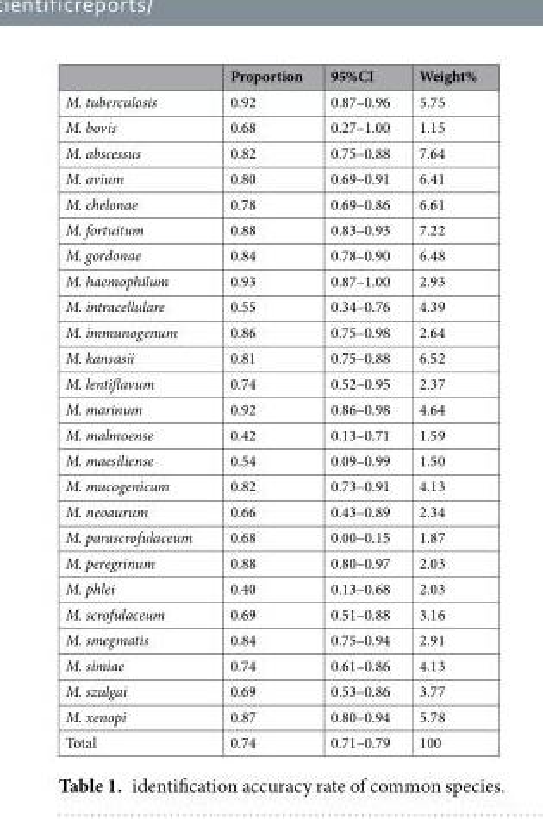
<table><thead><tr><td></td><td>Proportion</td><td>95%CI</td><td>Weight%</td></tr></thead><tbody><tr><td>M. tuberculosis</td><td>0.92</td><td>0.87–0.96</td><td>5.75</td></tr><tr><td>M. bovis</td><td>0.68</td><td>0.27–1.00</td><td>1.15</td></tr><tr><td>M. abscessus</td><td>0.82</td><td>0.75–0.88</td><td>7.64</td></tr><tr><td>M. avium</td><td>0.80</td><td>0.69–0.91</td><td>6.41</td></tr><tr><td>M. chelonae</td><td>0.78</td><td>0.69–0.86</td><td>6.61</td></tr><tr><td>M. fortuitum</td><td>0.88</td><td>0.83–0.93</td><td>7.22</td></tr><tr><td>M. gordonae</td><td>0.84</td><td>0.78–0.90</td><td>6.48</td></tr><tr><td>M. haemophilum</td><td>0.93</td><td>0.87–1.00</td><td>2.93</td></tr><tr><td>M. intracellulare</td><td>0.55</td><td>0.34–0.76</td><td>4.39</td></tr><tr><td>M. immunogenum</td><td>0.86</td><td>0.75–0.98</td><td>2.64</td></tr><tr><td>M. kansasii</td><td>0.81</td><td>0.75–0.88</td><td>6.52</td></tr><tr><td>M. lentiflavum</td><td>0.74</td><td>0.52–0.95</td><td>2.37</td></tr><tr><td>M. marinum</td><td>0.92</td><td>0.86–0.98</td><td>4.64</td></tr><tr><td>M. malmoense</td><td>0.42</td><td>0.13–0.71</td><td>1.59</td></tr><tr><td>M. maesiliense</td><td>0.54</td><td>0.09–0.99</td><td>1.50</td></tr><tr><td>M. mucogenicum</td><td>0.82</td><td>0.73–0.91</td><td>4.13</td></tr><tr><td>M. neoaurum</td><td>0.66</td><td>0.43–0.89</td><td>2.34</td></tr><tr><td>M. parascrofulaceum</td><td>0.68</td><td>0.00–0.15</td><td>1.87</td></tr><tr><td>M. peregrinum</td><td>0.88</td><td>0.80–0.97</td><td>2.03</td></tr><tr><td>M. phlei</td><td>0.40</td><td>0.13–0.68</td><td>2.03</td></tr><tr><td>M. scrofulaceum</td><td>0.69</td><td>0.51–0.88</td><td>3.16</td></tr><tr><td>M. smegmatis</td><td>0.84</td><td>0.75–0.94</td><td>2.91</td></tr><tr><td>M. simiae</td><td>0.74</td><td>0.61–0.86</td><td>4.13</td></tr><tr><td>M. szulgai</td><td>0.69</td><td>0.53–0.86</td><td>3.77</td></tr><tr><td>M. xenopi</td><td>0.87</td><td>0.80–0.94</td><td>5.78</td></tr><tr><td>Total</td><td>0.74</td><td>0.71–0.79</td><td>100</td></tr></tbody></table>